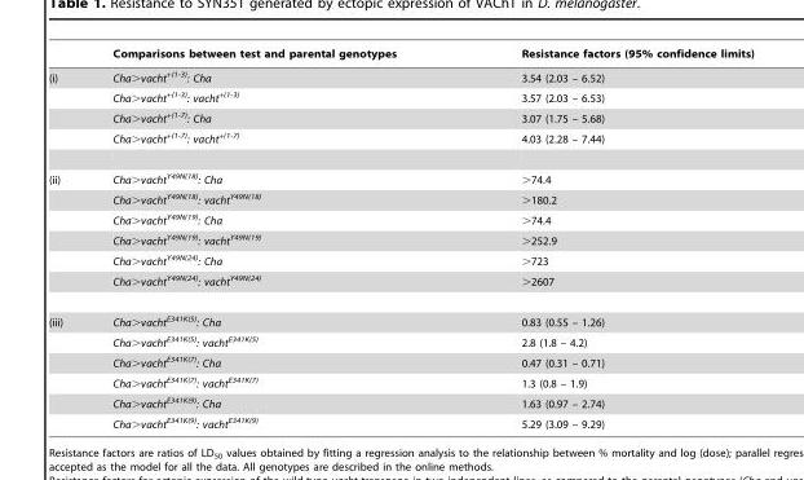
<table><thead><tr><td></td><td>Comparisons between test and parental genotypes</td><td>Resistance factors (95% confidence limits)</td></tr></thead><tbody><tr><td rowspan="4">(i)</td><td>Cha&gt;vacht<sup>+(1-3)</sup>: Cha</td><td>3.54 (2.03 – 6.52)</td></tr><tr><td>Cha&gt;vacht<sup>+(1-3)</sup>: vacht<sup>+(1-3)</sup></td><td>3.57 (2.03 – 6.53)</td></tr><tr><td>Cha&gt;vacht<sup>+(1-7)</sup>: Cha</td><td>3.07 (1.75 – 5.68)</td></tr><tr><td>Cha&gt;vacht<sup>+(1-7)</sup>: vacht<sup>+(1-7)</sup></td><td>4.03 (2.28 – 7.44)</td></tr><tr><td rowspan="6">(ii)</td><td>Cha&gt;vacht<sup>Y49N(18)</sup>: Cha</td><td>&gt;74.4</td></tr><tr><td>Cha&gt;vacht<sup>Y49N(18)</sup>: vacht<sup>Y49N(18)</sup></td><td>&gt;180.2</td></tr><tr><td>Cha&gt;vacht<sup>Y49N(19)</sup>: Cha</td><td>&gt;74.4</td></tr><tr><td>Cha&gt;vacht<sup>Y49N(19)</sup>: vacht<sup>Y49N(19)</sup></td><td>&gt;252.9</td></tr><tr><td>Cha&gt;vacht<sup>Y49N(24)</sup>: Cha</td><td>&gt;723</td></tr><tr><td>Cha&gt;vacht<sup>Y49N(24)</sup>: vacht<sup>Y49N(24)</sup></td><td>&gt;2607</td></tr><tr><td rowspan="6">(iii)</td><td>Cha&gt;vacht<sup>E341K(5)</sup>: Cha</td><td>0.83 (0.55 – 1.26)</td></tr><tr><td>Cha&gt;vacht<sup>E341K(5)</sup>: vacht<sup>E341K(5)</sup></td><td>2.8 (1.8 – 4.2)</td></tr><tr><td>Cha&gt;vacht<sup>E341K(7)</sup>: Cha</td><td>0.47 (0.31 – 0.71)</td></tr><tr><td>Cha&gt;vacht<sup>E341K(7)</sup>: vacht<sup>E341K(7)</sup></td><td>1.3 (0.8 – 1.9)</td></tr><tr><td>Cha&gt;vacht<sup>E341K(9)</sup>: Cha</td><td>1.63 (0.97 – 2.74)</td></tr><tr><td>Cha&gt;vacht<sup>E341K(9)</sup>: vacht<sup>E341K(9)</sup></td><td>5.29 (3.09 – 9.29)</td></tr></tbody></table>